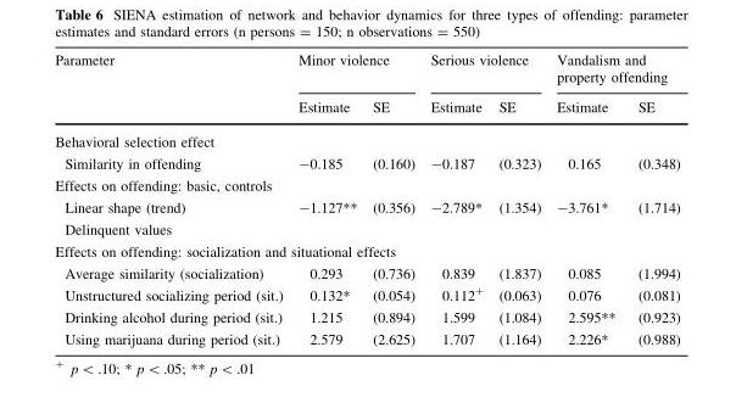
<table><thead><tr><td rowspan="2">Parameter</td><td colspan="2">Minor violence</td><td colspan="2">Serious violence</td><td colspan="2">Vandalism and property offending</td></tr><tr><td>Estimate</td><td>SE</td><td>Estimate</td><td>SE</td><td>Estimate</td><td>SE</td></tr></thead><tbody><tr><td colspan="7">Behavioral selection effect</td></tr><tr><td>Similarity in offending</td><td>-0.185</td><td>(0.160)</td><td>-0.187</td><td>(0.323)</td><td>0.165</td><td>(0.348)</td></tr><tr><td colspan="7">Effects on offending: basic, controls</td></tr><tr><td>Linear shape (trend)</td><td>-1.127**</td><td>(0.356)</td><td>-2.789*</td><td>(1.354)</td><td>-3.761*</td><td>(1.714)</td></tr><tr><td colspan="7">Delinquent values</td></tr><tr><td colspan="7">Effects on offending: socialization and situational effects</td></tr><tr><td>Average similarity (socialization)</td><td>0.293</td><td>(0.736)</td><td>0.839</td><td>(1.837)</td><td>0.085</td><td>(1.994)</td></tr><tr><td>Unstructured socializing period (sit.)</td><td>0.132*</td><td>(0.054)</td><td>0.112<sup>+</sup></td><td>(0.063)</td><td>0.076</td><td>(0.081)</td></tr><tr><td>Drinking alcohol during period (sit.)</td><td>1.215</td><td>(0.894)</td><td>1.599</td><td>(1.084)</td><td>2.595**</td><td>(0.923)</td></tr><tr><td>Using marijuana during period (sit.)</td><td>2.579</td><td>(2.625)</td><td>1.707</td><td>(1.164)</td><td>2.226*</td><td>(0.988)</td></tr></tbody></table>